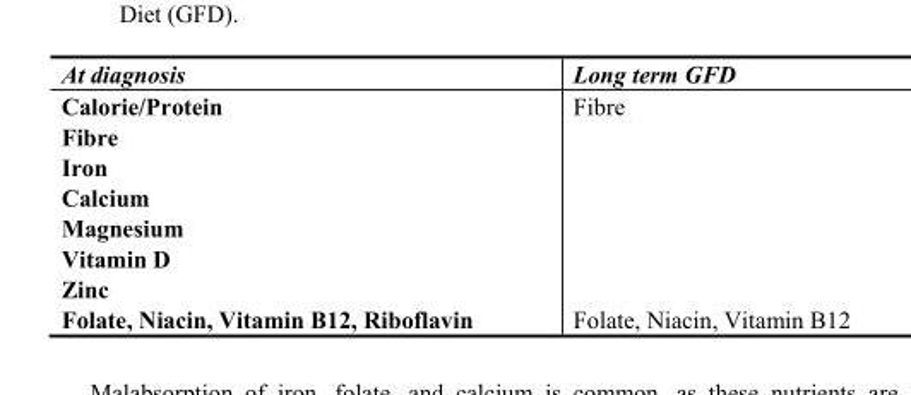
<table><thead><tr><td>At diagnosis</td><td>Long term GFD</td></tr></thead><tbody><tr><td>Calorie/Protein</td><td>Fibre</td></tr><tr><td colspan="2">Fibre</td></tr><tr><td colspan="2">Iron</td></tr><tr><td colspan="2">Calcium</td></tr><tr><td colspan="2">Magnesium</td></tr><tr><td colspan="2">Vitamin D</td></tr><tr><td colspan="2">Zinc</td></tr><tr><td>Folate, Niacin, Vitamin B12, Riboflavin</td><td>Folate, Niacin, Vitamin B12</td></tr></tbody></table>